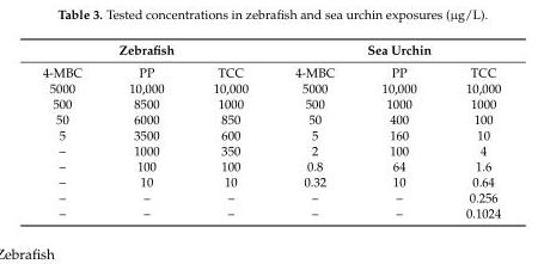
<table><thead><tr><td colspan="3">Zebrafish</td><td colspan="3">Sea Urchin</td></tr><tr><td>4-MBC</td><td>PP</td><td>TCC</td><td>4-MBC</td><td>PP</td><td>TCC</td></tr></thead><tbody><tr><td>5000</td><td>10,000</td><td>10,000</td><td>5000</td><td>10,000</td><td>10,000</td></tr><tr><td>500</td><td>8500</td><td>1000</td><td>500</td><td>1000</td><td>1000</td></tr><tr><td>50</td><td>6000</td><td>850</td><td>50</td><td>400</td><td>100</td></tr><tr><td>5</td><td>3500</td><td>600</td><td>5</td><td>160</td><td>10</td></tr><tr><td>–</td><td>1000</td><td>350</td><td>2</td><td>100</td><td>4</td></tr><tr><td>–</td><td>100</td><td>100</td><td>0.8</td><td>64</td><td>1.6</td></tr><tr><td>–</td><td>10</td><td>10</td><td>0.32</td><td>10</td><td>0.64</td></tr><tr><td>–</td><td>–</td><td>–</td><td>–</td><td>–</td><td>0.256</td></tr><tr><td>–</td><td>–</td><td>–</td><td>–</td><td>–</td><td>0.1024</td></tr></tbody></table>